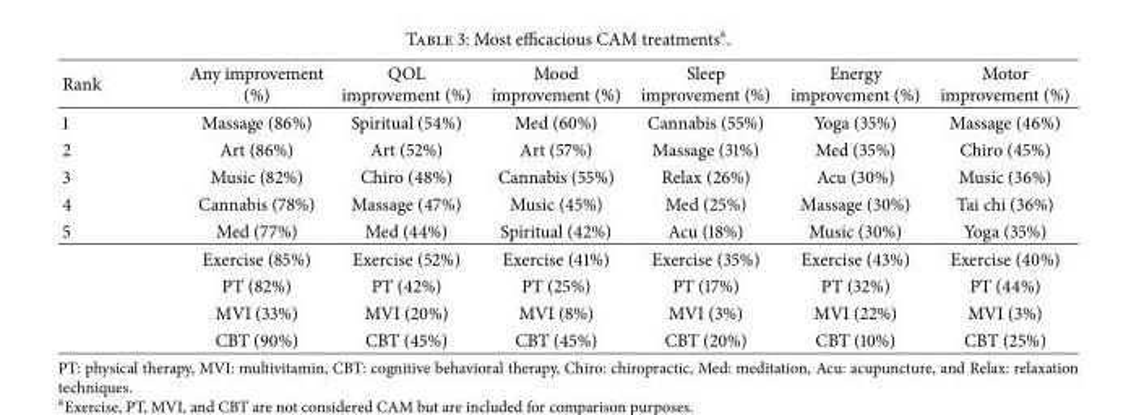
<table><thead><tr><td>Rank</td><td>Any improvement (%)</td><td>QOL improvement (%)</td><td>Mood improvement (%)</td><td>Sleep improvement (%)</td><td>Energy improvement (%)</td><td>Motor improvement (%)</td></tr></thead><tbody><tr><td>1</td><td>Massage (86%)</td><td>Spiritual (54%)</td><td>Med (60%)</td><td>Cannabis (55%)</td><td>Yoga (35%)</td><td>Massage (46%)</td></tr><tr><td>2</td><td>Art (86%)</td><td>Art (52%)</td><td>Art (57%)</td><td>Massage (31%)</td><td>Med (35%)</td><td>Chiro (45%)</td></tr><tr><td>3</td><td>Music (82%)</td><td>Chiro (48%)</td><td>Cannabis (55%)</td><td>Relax (26%)</td><td>Acu (30%)</td><td>Music (36%)</td></tr><tr><td>4</td><td>Cannabis (78%)</td><td>Massage (47%)</td><td>Music (45%)</td><td>Med (25%)</td><td>Massage (30%)</td><td>Tai chi (36%)</td></tr><tr><td rowspan="5">5</td><td>Med (77%)</td><td>Med (44%)</td><td>Spiritual (42%)</td><td>Acu (18%)</td><td>Music (30%)</td><td>Yoga (35%)</td></tr><tr><td>Exercise (85%)</td><td>Exercise (52%)</td><td>Exercise (41%)</td><td>Exercise (35%)</td><td>Exercise (43%)</td><td>Exercise (40%)</td></tr><tr><td>PT (82%)</td><td>PT (42%)</td><td>PT (25%)</td><td>PT (17%)</td><td>PT (32%)</td><td>PT (44%)</td></tr><tr><td>MVI (33%)</td><td>MVI (20%)</td><td>MVI (8%)</td><td>MVI (3%)</td><td>MVI (22%)</td><td>MVI (3%)</td></tr><tr><td>CBT (90%)</td><td>CBT (45%)</td><td>CBT (45%)</td><td>CBT (20%)</td><td>CBT (10%)</td><td>CBT (25%)</td></tr></tbody></table>